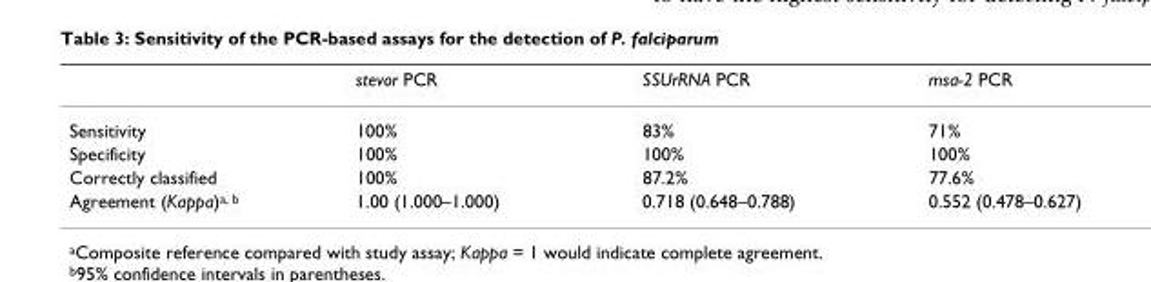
<table><thead><tr><td></td><td>stevor PCR</td><td>SSUrRNA PCR</td><td>msa-2 PCR</td></tr></thead><tbody><tr><td>Sensitivity</td><td>100%</td><td>83%</td><td>71%</td></tr><tr><td>Specificity</td><td>100%</td><td>100%</td><td>100%</td></tr><tr><td>Correctly classified</td><td>100%</td><td>87.2%</td><td>77.6%</td></tr><tr><td>Agreement (Kappa)<sup>a, b</sup></td><td>1.00 (1.000–1.000)</td><td>0.718 (0.648–0.788)</td><td>0.552 (0.478–0.627)</td></tr></tbody></table>